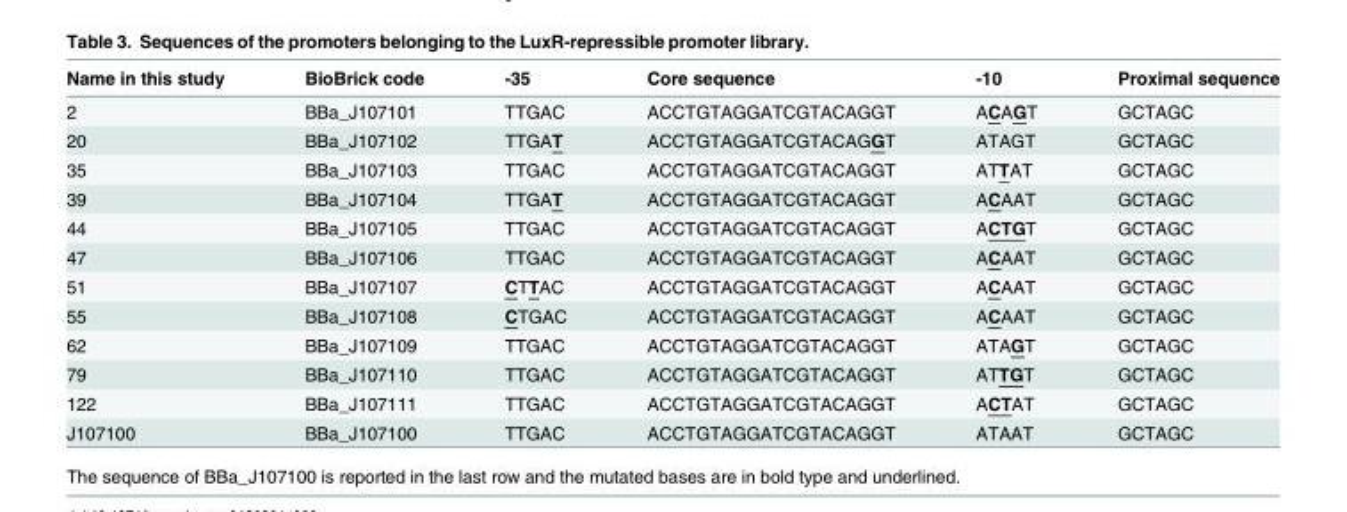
<table><thead><tr><td>Name in this study</td><td>BioBrick code</td><td>-35</td><td>Core sequence</td><td>-10</td><td>Proximal sequence</td></tr></thead><tbody><tr><td>2</td><td>BBa_J107101</td><td>TTGAC</td><td>ACCTGTAGGATCGTACAGGT</td><td>ACAGT</td><td>GCTAGC</td></tr><tr><td>20</td><td>BBa_J107102</td><td>TTGAT</td><td>ACCTGTAGGATCGTACAGGT</td><td>ATAGT</td><td>GCTAGC</td></tr><tr><td>35</td><td>BBa_J107103</td><td>TTGAC</td><td>ACCTGTAGGATCGTACAGGT</td><td>ATTAT</td><td>GCTAGC</td></tr><tr><td>39</td><td>BBa_J107104</td><td>TTGAT</td><td>ACCTGTAGGATCGTACAGGT</td><td>ACAAT</td><td>GCTAGC</td></tr><tr><td>44</td><td>BBa_J107105</td><td>TTGAC</td><td>ACCTGTAGGATCGTACAGGT</td><td>ACTGT</td><td>GCTAGC</td></tr><tr><td>47</td><td>BBa_J107106</td><td>TTGAC</td><td>ACCTGTAGGATCGTACAGGT</td><td>ACAAT</td><td>GCTAGC</td></tr><tr><td>51</td><td>BBa_J107107</td><td>CTTAC</td><td>ACCTGTAGGATCGTACAGGT</td><td>ACAAT</td><td>GCTAGC</td></tr><tr><td>55</td><td>BBa_J107108</td><td>CTGAC</td><td>ACCTGTAGGATCGTACAGGT</td><td>ACAAT</td><td>GCTAGC</td></tr><tr><td>62</td><td>BBa_J107109</td><td>TTGAC</td><td>ACCTGTAGGATCGTACAGGT</td><td>ATAGT</td><td>GCTAGC</td></tr><tr><td>79</td><td>BBa_J107110</td><td>TTGAC</td><td>ACCTGTAGGATCGTACAGGT</td><td>ATTGT</td><td>GCTAGC</td></tr><tr><td>122</td><td>BBa_J107111</td><td>TTGAC</td><td>ACCTGTAGGATCGTACAGGT</td><td>ACTAT</td><td>GCTAGC</td></tr><tr><td>J107100</td><td>BBa_J107100</td><td>TTGAC</td><td>ACCTGTAGGATCGTACAGGT</td><td>ATAAT</td><td>GCTAGC</td></tr></tbody></table>